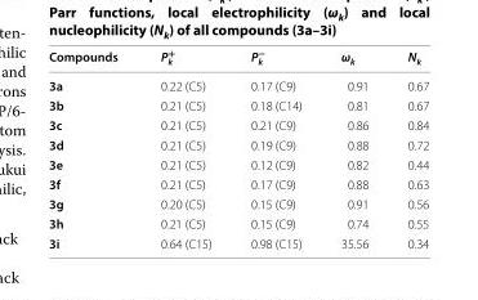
<table><thead><tr><td>Compounds</td><td>P<sub>k</sub> <sup>+</sup></td><td>P<sub>k</sub> <sup>−</sup></td><td>ω<sub>k</sub></td><td>N<sub>k</sub></td></tr></thead><tbody><tr><td>3a</td><td>0.22 (C5)</td><td>0.17 (C9)</td><td>0.91</td><td>0.67</td></tr><tr><td>3b</td><td>0.21 (C5)</td><td>0.18 (C14)</td><td>0.81</td><td>0.67</td></tr><tr><td>3c</td><td>0.21 (C5)</td><td>0.21 (C9)</td><td>0.86</td><td>0.84</td></tr><tr><td>3d</td><td>0.21 (C5)</td><td>0.19 (C9)</td><td>0.88</td><td>0.72</td></tr><tr><td>3e</td><td>0.21 (C5)</td><td>0.12 (C9)</td><td>0.82</td><td>0.44</td></tr><tr><td>3f</td><td>0.21 (C5)</td><td>0.17 (C9)</td><td>0.88</td><td>0.63</td></tr><tr><td>3g</td><td>0.20 (C5)</td><td>0.15 (C9)</td><td>0.91</td><td>0.56</td></tr><tr><td>3h</td><td>0.21 (C5)</td><td>0.15 (C9)</td><td>0.74</td><td>0.55</td></tr><tr><td>3i</td><td>0.64 (C15)</td><td>0.98 (C15)</td><td>35.56</td><td>0.34</td></tr></tbody></table>